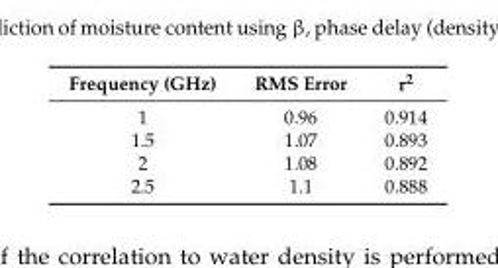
<table><thead><tr><td>Frequency (GHz)</td><td>RMS Error</td><td>r<sup>2</sup></td></tr></thead><tbody><tr><td>1</td><td>0.96</td><td>0.914</td></tr><tr><td>1.5</td><td>1.07</td><td>0.893</td></tr><tr><td>2</td><td>1.08</td><td>0.892</td></tr><tr><td>2.5</td><td>1.1</td><td>0.888</td></tr></tbody></table>